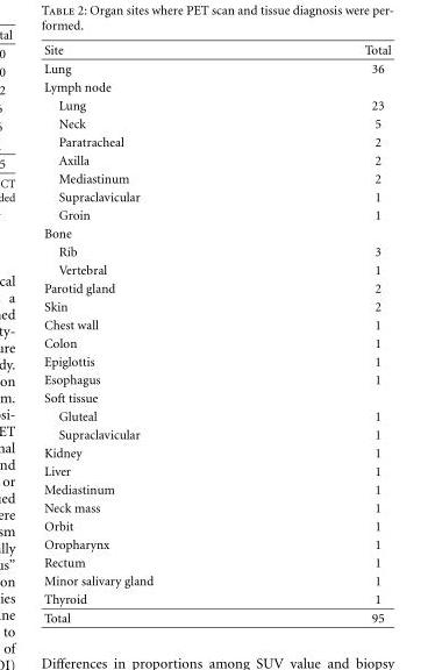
<table><thead><tr><td>Site</td><td>Total</td></tr></thead><tbody><tr><td>Lung</td><td>36</td></tr><tr><td colspan="2">Lymph node</td></tr><tr><td>Lung</td><td>23</td></tr><tr><td>Neck</td><td>5</td></tr><tr><td>Paratracheal</td><td>2</td></tr><tr><td>Axilla</td><td>2</td></tr><tr><td>Mediastinum</td><td>2</td></tr><tr><td>Supraclavicular</td><td>1</td></tr><tr><td>Groin</td><td>1</td></tr><tr><td colspan="2">Bone</td></tr><tr><td>Rib</td><td>3</td></tr><tr><td>Vertebral</td><td>1</td></tr><tr><td>Parotid gland</td><td>2</td></tr><tr><td>Skin</td><td>2</td></tr><tr><td>Chest wall</td><td>1</td></tr><tr><td>Colon</td><td>1</td></tr><tr><td>Epiglottis</td><td>1</td></tr><tr><td>Esophagus</td><td>1</td></tr><tr><td colspan="2">Soft tissue</td></tr><tr><td>Gluteal</td><td>1</td></tr><tr><td>Supraclavicular</td><td>1</td></tr><tr><td>Kidney</td><td>1</td></tr><tr><td>Liver</td><td>1</td></tr><tr><td>Mediastinum</td><td>1</td></tr><tr><td>Neck mass</td><td>1</td></tr><tr><td>Orbit</td><td>1</td></tr><tr><td>Oropharynx</td><td>1</td></tr><tr><td>Rectum</td><td>1</td></tr><tr><td>Minor salivary gland</td><td>1</td></tr><tr><td>Thyroid</td><td>1</td></tr><tr><td>Total</td><td>95</td></tr></tbody></table>